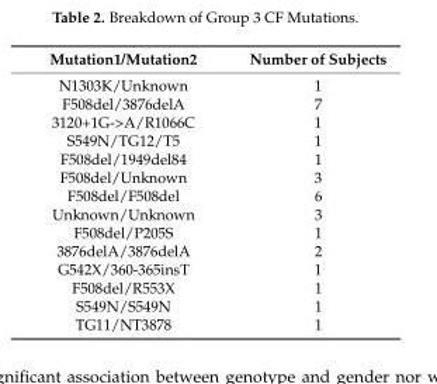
<table><thead><tr><td>Mutation1/Mutation2</td><td>Number of Subjects</td></tr></thead><tbody><tr><td>N1303K/Unknown</td><td>1</td></tr><tr><td>F508del/3876delA</td><td>7</td></tr><tr><td>3120+1G-&gt;A/R1066C</td><td>1</td></tr><tr><td>S549N/TG12/T5</td><td>1</td></tr><tr><td>F508del/1949del84</td><td>1</td></tr><tr><td>F508del/Unknown</td><td>3</td></tr><tr><td>F508del/F508del</td><td>6</td></tr><tr><td>Unknown/Unknown</td><td>3</td></tr><tr><td>F508del/P205S</td><td>1</td></tr><tr><td>3876delA/3876delA</td><td>2</td></tr><tr><td>G542X/360-365insT</td><td>1</td></tr><tr><td>F508del/R553X</td><td>1</td></tr><tr><td>S549N/S549N</td><td>1</td></tr><tr><td>TG11/NT3878</td><td>1</td></tr></tbody></table>